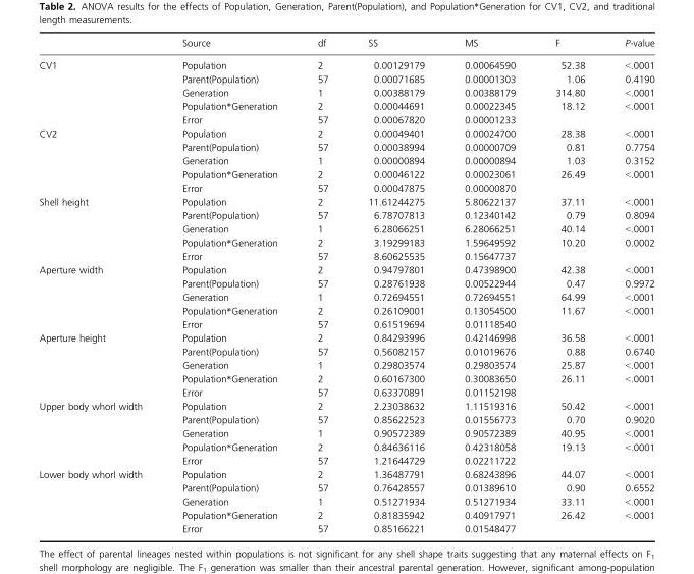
<table><thead><tr><td></td><td>Source</td><td>df</td><td>SS</td><td>MS</td><td>F</td><td>P-value</td></tr></thead><tbody><tr><td rowspan="5">CV1</td><td>Population</td><td>2</td><td>0.00129179</td><td>0.00064590</td><td>52.38</td><td>&lt;.0001</td></tr><tr><td>Parent(Population)</td><td>57</td><td>0.00071685</td><td>0.00001303</td><td>1.06</td><td>0.4190</td></tr><tr><td>Generation</td><td>1</td><td>0.00388179</td><td>0.00388179</td><td>314.80</td><td>&lt;.0001</td></tr><tr><td>Population*Generation</td><td>2</td><td>0.00044691</td><td>0.00022345</td><td>18.12</td><td>&lt;.0001</td></tr><tr><td>Error</td><td>57</td><td>0.00067820</td><td>0.00001233</td><td></td><td></td></tr><tr><td rowspan="5">CV2</td><td>Population</td><td>2</td><td>0.00049401</td><td>0.00024700</td><td>28.38</td><td>&lt;.0001</td></tr><tr><td>Parent(Population)</td><td>57</td><td>0.00038994</td><td>0.00000709</td><td>0.81</td><td>0.7754</td></tr><tr><td>Generation</td><td>1</td><td>0.00000894</td><td>0.00000894</td><td>1.03</td><td>0.3152</td></tr><tr><td>Population*Generation</td><td>2</td><td>0.00046122</td><td>0.00023061</td><td>26.49</td><td>&lt;.0001</td></tr><tr><td>Error</td><td>57</td><td>0.00047875</td><td>0.00000870</td><td></td><td></td></tr><tr><td rowspan="5">Shell height</td><td>Population</td><td>2</td><td>11.61244275</td><td>5.80622137</td><td>37.11</td><td>&lt;.0001</td></tr><tr><td>Parent(Population)</td><td>57</td><td>6.78707813</td><td>0.12340142</td><td>0.79</td><td>0.8094</td></tr><tr><td>Generation</td><td>1</td><td>6.28066251</td><td>6.28066251</td><td>40.14</td><td>&lt;.0001</td></tr><tr><td>Population*Generation</td><td>2</td><td>3.19299183</td><td>1.59649592</td><td>10.20</td><td>0.0002</td></tr><tr><td>Error</td><td>57</td><td>8.60625535</td><td>0.15647737</td><td></td><td></td></tr><tr><td rowspan="5">Aperture width</td><td>Population</td><td>2</td><td>0.94797801</td><td>0.47398900</td><td>42.38</td><td>&lt;.0001</td></tr><tr><td>Parent(Population)</td><td>57</td><td>0.28761938</td><td>0.00522944</td><td>0.47</td><td>0.9972</td></tr><tr><td>Generation</td><td>1</td><td>0.72694551</td><td>0.72694551</td><td>64.99</td><td>&lt;.0001</td></tr><tr><td>Population*Generation</td><td>2</td><td>0.26109001</td><td>0.13054500</td><td>11.67</td><td>&lt;.0001</td></tr><tr><td>Error</td><td>57</td><td>0.61519694</td><td>0.01118540</td><td></td><td></td></tr><tr><td rowspan="5">Aperture height</td><td>Population</td><td>2</td><td>0.84293996</td><td>0.42146998</td><td>36.58</td><td>&lt;.0001</td></tr><tr><td>Parent(Population)</td><td>57</td><td>0.56082157</td><td>0.01019676</td><td>0.88</td><td>0.6740</td></tr><tr><td>Generation</td><td>1</td><td>0.29803574</td><td>0.29803574</td><td>25.87</td><td>&lt;.0001</td></tr><tr><td>Population*Generation</td><td>2</td><td>0.60167300</td><td>0.30083650</td><td>26.11</td><td>&lt;.0001</td></tr><tr><td>Error</td><td>57</td><td>0.63370891</td><td>0.01152198</td><td></td><td></td></tr><tr><td rowspan="5">Upper body whorl width</td><td>Population</td><td>2</td><td>2.23038632</td><td>1.11519316</td><td>50.42</td><td>&lt;.0001</td></tr><tr><td>Parent(Population)</td><td>57</td><td>0.85622523</td><td>0.01556773</td><td>0.70</td><td>0.9020</td></tr><tr><td>Generation</td><td>1</td><td>0.90572389</td><td>0.90572389</td><td>40.95</td><td>&lt;.0001</td></tr><tr><td>Population*Generation</td><td>2</td><td>0.84636116</td><td>0.42318058</td><td>19.13</td><td>&lt;.0001</td></tr><tr><td>Error</td><td>57</td><td>1.21644729</td><td>0.02211722</td><td></td><td></td></tr><tr><td rowspan="5">Lower body whorl width</td><td>Population</td><td>2</td><td>1.36487791</td><td>0.68243896</td><td>44.07</td><td>&lt;.0001</td></tr><tr><td>Parent(Population)</td><td>57</td><td>0.76428557</td><td>0.01389610</td><td>0.90</td><td>0.6552</td></tr><tr><td>Generation</td><td>1</td><td>0.51271934</td><td>0.51271934</td><td>33.11</td><td>&lt;.0001</td></tr><tr><td>Population*Generation</td><td>2</td><td>0.81835942</td><td>0.40917971</td><td>26.42</td><td>&lt;.0001</td></tr><tr><td>Error</td><td>57</td><td>0.85166221</td><td>0.01548477</td><td></td><td></td></tr></tbody></table>